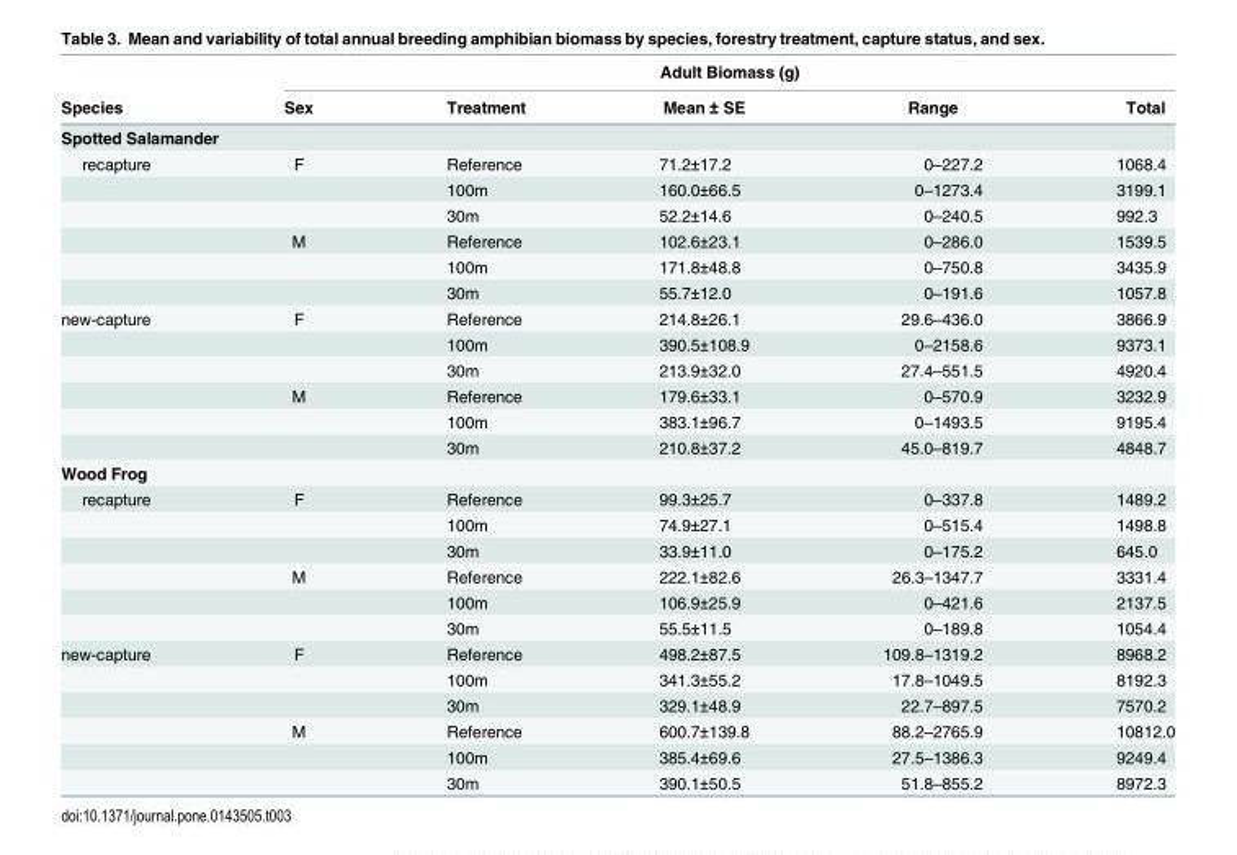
<table><thead><tr><td rowspan="2">Species</td><td colspan="5">Adult Biomass (g)</td></tr><tr><td>Sex</td><td>Treatment</td><td>Mean ± SE</td><td>Range</td><td>Total</td></tr></thead><tbody><tr><td colspan="6">Spotted Salamander</td></tr><tr><td rowspan="6">recapture</td><td>F</td><td>Reference</td><td>71.2±17.2</td><td>0–227.2</td><td>1068.4</td></tr><tr><td></td><td>100m</td><td>160.0±66.5</td><td>0–1273.4</td><td>3199.1</td></tr><tr><td></td><td>30m</td><td>52.2±14.6</td><td>0–240.5</td><td>992.3</td></tr><tr><td>M</td><td>Reference</td><td>102.6±23.1</td><td>0–286.0</td><td>1539.5</td></tr><tr><td></td><td>100m</td><td>171.8±48.8</td><td>0–750.8</td><td>3435.9</td></tr><tr><td></td><td>30m</td><td>55.7±12.0</td><td>0–191.6</td><td>1057.8</td></tr><tr><td rowspan="6">new-capture</td><td>F</td><td>Reference</td><td>214.8±26.1</td><td>29.6–436.0</td><td>3866.9</td></tr><tr><td></td><td>100m</td><td>390.5±108.9</td><td>0–2158.6</td><td>9373.1</td></tr><tr><td></td><td>30m</td><td>213.9±32.0</td><td>27.4–551.5</td><td>4920.4</td></tr><tr><td>M</td><td>Reference</td><td>179.6±33.1</td><td>0–570.9</td><td>3232.9</td></tr><tr><td></td><td>100m</td><td>383.1±96.7</td><td>0–1493.5</td><td>9195.4</td></tr><tr><td></td><td>30m</td><td>210.8±37.2</td><td>45.0–819.7</td><td>4848.7</td></tr><tr><td colspan="6">Wood Frog</td></tr><tr><td rowspan="6">recapture</td><td>F</td><td>Reference</td><td>99.3±25.7</td><td>0–337.8</td><td>1489.2</td></tr><tr><td></td><td>100m</td><td>74.9±27.1</td><td>0–515.4</td><td>1498.8</td></tr><tr><td></td><td>30m</td><td>33.9±11.0</td><td>0–175.2</td><td>645.0</td></tr><tr><td>M</td><td>Reference</td><td>222.1±82.6</td><td>26.3–1347.7</td><td>3331.4</td></tr><tr><td></td><td>100m</td><td>106.9±25.9</td><td>0–421.6</td><td>2137.5</td></tr><tr><td></td><td>30m</td><td>55.5±11.5</td><td>0–189.8</td><td>1054.4</td></tr><tr><td rowspan="6">new-capture</td><td>F</td><td>Reference</td><td>498.2±87.5</td><td>109.8–1319.2</td><td>8968.2</td></tr><tr><td></td><td>100m</td><td>341.3±55.2</td><td>17.8–1049.5</td><td>8192.3</td></tr><tr><td></td><td>30m</td><td>329.1±48.9</td><td>22.7–897.5</td><td>7570.2</td></tr><tr><td>M</td><td>Reference</td><td>600.7±139.8</td><td>88.2–2765.9</td><td>10812.0</td></tr><tr><td></td><td>100m</td><td>385.4±69.6</td><td>27.5–1386.3</td><td>9249.4</td></tr><tr><td></td><td>30m</td><td>390.1±50.5</td><td>51.8–855.2</td><td>8972.3</td></tr></tbody></table>